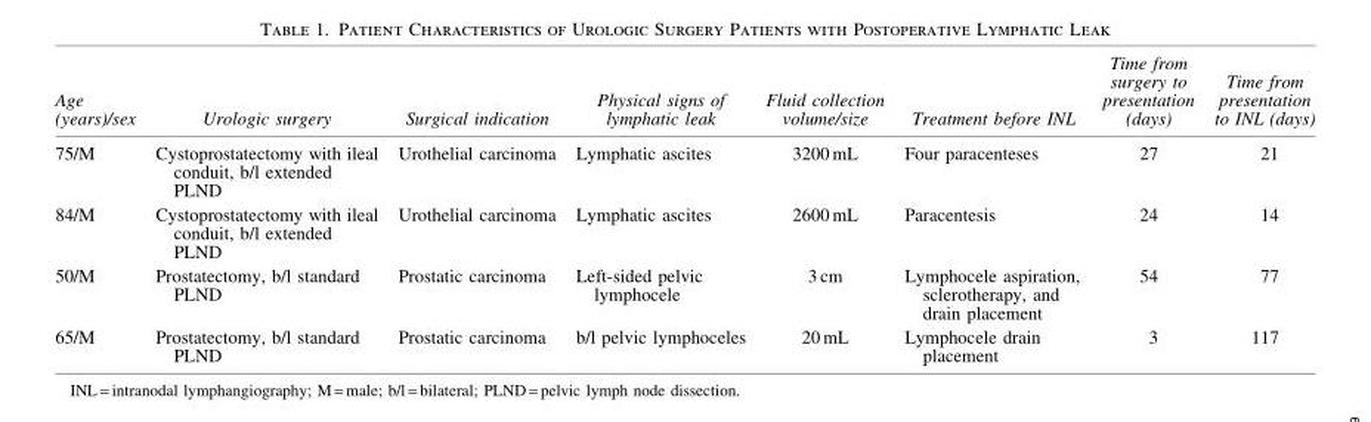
<table><thead><tr><td>Age (years)/sex</td><td>Urologic surgery</td><td>Surgical indication</td><td>Physical signs of lymphatic leak</td><td>Fluid collection volume/size</td><td>Treatment before INL</td><td>Time from surgery to presentation (days)</td><td>Time from presentation to INL (days)</td></tr></thead><tbody><tr><td>75/M</td><td>Cystoprostatectomy with ileal conduit, b/l extended PLND</td><td>Urothelial carcinoma</td><td>Lymphatic ascites</td><td>3200 mL</td><td>Four paracenteses</td><td>27</td><td>21</td></tr><tr><td>84/M</td><td>Cystoprostatectomy with ileal conduit, b/l extended PLND</td><td>Urothelial carcinoma</td><td>Lymphatic ascites</td><td>2600 mL</td><td>Paracentesis</td><td>24</td><td>14</td></tr><tr><td>50/M</td><td>Prostatectomy, b/l standard PLND</td><td>Prostatic carcinoma</td><td>Left-sided pelvic lymphocele</td><td>3 cm</td><td>Lymphocele aspiration, sclerotherapy, and drain placement</td><td>54</td><td>77</td></tr><tr><td>65/M</td><td>Prostatectomy, b/l standard PLND</td><td>Prostatic carcinoma</td><td>b/l pelvic lymphoceles</td><td>20 mL</td><td>Lymphocele drain placement</td><td>3</td><td>117</td></tr></tbody></table>